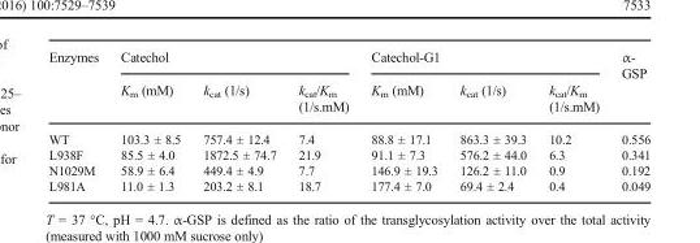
<table><thead><tr><td rowspan="2">Enzymes</td><td colspan="3">Catechol</td><td colspan="3">Catechol-G1</td><td rowspan="2">α- GSP</td></tr><tr><td>K<sub>m</sub> (mM)</td><td>k<sub>cat</sub> (1/s)</td><td>k<sub>cat</sub>/K<sub>m</sub> (1/s.mM)</td><td>K<sub>m</sub> (mM)</td><td>k<sub>cat</sub> (1/s)</td><td>k<sub>cat</sub>/K<sub>m</sub> (1/s.mM)</td></tr></thead><tbody><tr><td>WT</td><td>103.3 ± 8.5</td><td>757.4 ± 12.4</td><td>7.4</td><td>88.8 ± 17.1</td><td>863.3 ± 39.3</td><td>10.2</td><td>0.556</td></tr><tr><td>L938F</td><td>85.5 ± 4.0</td><td>1872.5 ± 74.7</td><td>21.9</td><td>91.1 ± 7.3</td><td>576.2 ± 44.0</td><td>6.3</td><td>0.341</td></tr><tr><td>N1029M</td><td>58.9 ± 6.4</td><td>449.4 ± 4.9</td><td>7.7</td><td>146.9 ± 19.3</td><td>126.2 ± 11.0</td><td>0.9</td><td>0.192</td></tr><tr><td>L981A</td><td>11.0 ± 1.3</td><td>203.2 ± 8.1</td><td>18.7</td><td>177.4 ± 7.0</td><td>69.4 ± 2.4</td><td>0.4</td><td>0.049</td></tr></tbody></table>